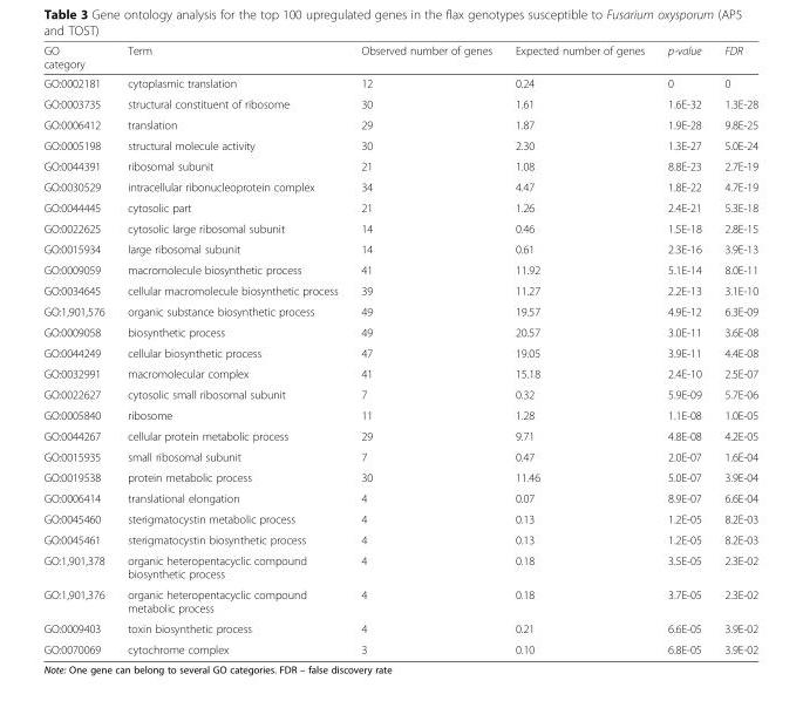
<table><thead><tr><td>GO category</td><td>Term</td><td>Observed number of genes</td><td>Expected number of genes</td><td>p-value</td><td>FDR</td></tr></thead><tbody><tr><td>GO:0002181</td><td>cytoplasmic translation</td><td>12</td><td>0.24</td><td>0</td><td>0</td></tr><tr><td>GO:0003735</td><td>structural constituent of ribosome</td><td>30</td><td>1.61</td><td>1.6E-32</td><td>1.3E-28</td></tr><tr><td>GO:0006412</td><td>translation</td><td>29</td><td>1.87</td><td>1.9E-28</td><td>9.8E-25</td></tr><tr><td>GO:0005198</td><td>structural molecule activity</td><td>30</td><td>2.30</td><td>1.3E-27</td><td>5.0E-24</td></tr><tr><td>GO:0044391</td><td>ribosomal subunit</td><td>21</td><td>1.08</td><td>8.8E-23</td><td>2.7E-19</td></tr><tr><td>GO:0030529</td><td>intracellular ribonucleoprotein complex</td><td>34</td><td>4.47</td><td>1.8E-22</td><td>4.7E-19</td></tr><tr><td>GO:0044445</td><td>cytosolic part</td><td>21</td><td>1.26</td><td>2.4E-21</td><td>5.3E-18</td></tr><tr><td>GO:0022625</td><td>cytosolic large ribosomal subunit</td><td>14</td><td>0.46</td><td>1.5E-18</td><td>2.8E-15</td></tr><tr><td>GO:0015934</td><td>large ribosomal subunit</td><td>14</td><td>0.61</td><td>2.3E-16</td><td>3.9E-13</td></tr><tr><td>GO:0009059</td><td>macromolecule biosynthetic process</td><td>41</td><td>11.92</td><td>5.1E-14</td><td>8.0E-11</td></tr><tr><td>GO:0034645</td><td>cellular macromolecule biosynthetic process</td><td>39</td><td>11.27</td><td>2.2E-13</td><td>3.1E-10</td></tr><tr><td>GO:1,901,576</td><td>organic substance biosynthetic process</td><td>49</td><td>19.57</td><td>4.9E-12</td><td>6.3E-09</td></tr><tr><td>GO:0009058</td><td>biosynthetic process</td><td>49</td><td>20.57</td><td>3.0E-11</td><td>3.6E-08</td></tr><tr><td>GO:0044249</td><td>cellular biosynthetic process</td><td>47</td><td>19.05</td><td>3.9E-11</td><td>4.4E-08</td></tr><tr><td>GO:0032991</td><td>macromolecular complex</td><td>41</td><td>15.18</td><td>2.4E-10</td><td>2.5E-07</td></tr><tr><td>GO:0022627</td><td>cytosolic small ribosomal subunit</td><td>7</td><td>0.32</td><td>5.9E-09</td><td>5.7E-06</td></tr><tr><td>GO:0005840</td><td>ribosome</td><td>11</td><td>1.28</td><td>1.1E-08</td><td>1.0E-05</td></tr><tr><td>GO:0044267</td><td>cellular protein metabolic process</td><td>29</td><td>9.71</td><td>4.8E-08</td><td>4.2E-05</td></tr><tr><td>GO:0015935</td><td>small ribosomal subunit</td><td>7</td><td>0.47</td><td>2.0E-07</td><td>1.6E-04</td></tr><tr><td>GO:0019538</td><td>protein metabolic process</td><td>30</td><td>11.46</td><td>5.0E-07</td><td>3.9E-04</td></tr><tr><td>GO:0006414</td><td>translational elongation</td><td>4</td><td>0.07</td><td>8.9E-07</td><td>6.6E-04</td></tr><tr><td>GO:0045460</td><td>sterigmatocystin metabolic process</td><td>4</td><td>0.13</td><td>1.2E-05</td><td>8.2E-03</td></tr><tr><td>GO:0045461</td><td>sterigmatocystin biosynthetic process</td><td>4</td><td>0.13</td><td>1.2E-05</td><td>8.2E-03</td></tr><tr><td>GO:1,901,378</td><td>organic heteropentacyclic compound biosynthetic process</td><td>4</td><td>0.18</td><td>3.5E-05</td><td>2.3E-02</td></tr><tr><td>GO:1,901,376</td><td>organic heteropentacyclic compound metabolic process</td><td>4</td><td>0.18</td><td>3.7E-05</td><td>2.3E-02</td></tr><tr><td>GO:0009403</td><td>toxin biosynthetic process</td><td>4</td><td>0.21</td><td>6.6E-05</td><td>3.9E-02</td></tr><tr><td>GO:0070069</td><td>cytochrome complex</td><td>3</td><td>0.10</td><td>6.8E-05</td><td>3.9E-02</td></tr></tbody></table>